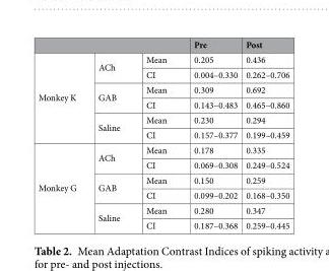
<table><thead><tr><td></td><td></td><td></td><td>Pre</td><td>Post</td></tr></thead><tbody><tr><td rowspan="6">Monkey K</td><td rowspan="2">ACh</td><td>Mean</td><td>0.205</td><td>0.436</td></tr><tr><td>CI</td><td>0.004–0.330</td><td>0.262–0.706</td></tr><tr><td rowspan="2">GAB</td><td>Mean</td><td>0.309</td><td>0.692</td></tr><tr><td>CI</td><td>0.143–0.483</td><td>0.465–0.860</td></tr><tr><td rowspan="2">Saline</td><td>Mean</td><td>0.230</td><td>0.294</td></tr><tr><td>CI</td><td>0.157–0.377</td><td>0.199–0.459</td></tr><tr><td rowspan="6">Monkey G</td><td rowspan="2">ACh</td><td>Mean</td><td>0.178</td><td>0.335</td></tr><tr><td>CI</td><td>0.069–0.308</td><td>0.249–0.524</td></tr><tr><td rowspan="2">GAB</td><td>Mean</td><td>0.150</td><td>0.259</td></tr><tr><td>CI</td><td>0.099–0.202</td><td>0.168–0.350</td></tr><tr><td rowspan="2">Saline</td><td>Mean</td><td>0.280</td><td>0.347</td></tr><tr><td>CI</td><td>0.187–0.368</td><td>0.259–0.445</td></tr></tbody></table>